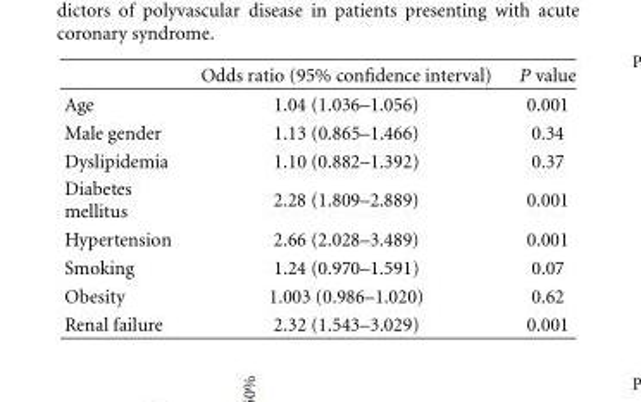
<table><thead><tr><td></td><td>Odds ratio (95% confidence interval)</td><td>P value</td></tr></thead><tbody><tr><td>Age</td><td>1.04 (1.036–1.056)</td><td>0.001</td></tr><tr><td>Male gender</td><td>1.13 (0.865–1.466)</td><td>0.34</td></tr><tr><td>Dyslipidemia</td><td>1.10 (0.882–1.392)</td><td>0.37</td></tr><tr><td>Diabetes mellitus</td><td>2.28 (1.809–2.889)</td><td>0.001</td></tr><tr><td>Hypertension</td><td>2.66 (2.028–3.489)</td><td>0.001</td></tr><tr><td>Smoking</td><td>1.24 (0.970–1.591)</td><td>0.07</td></tr><tr><td>Obesity</td><td>1.003 (0.986–1.020)</td><td>0.62</td></tr><tr><td>Renal failure</td><td>2.32 (1.543–3.029)</td><td>0.001</td></tr></tbody></table>